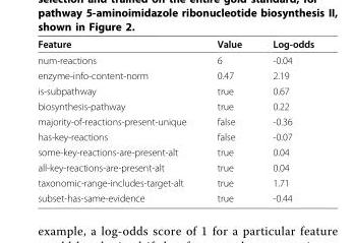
<table><thead><tr><td>Feature</td><td>Value</td><td>Log-odds</td></tr></thead><tbody><tr><td>num-reactions</td><td>6</td><td>-0.04</td></tr><tr><td>enzyme-info-content-norm</td><td>0.47</td><td>2.19</td></tr><tr><td>is-subpathway</td><td>true</td><td>0.67</td></tr><tr><td>biosynthesis-pathway</td><td>true</td><td>0.22</td></tr><tr><td>majority-of-reactions-present-unique</td><td>false</td><td>-0.36</td></tr><tr><td>has-key-reactions</td><td>false</td><td>-0.07</td></tr><tr><td>some-key-reactions-are-present-alt</td><td>true</td><td>0.04</td></tr><tr><td>all-key-reactions-are-present-alt</td><td>true</td><td>0.04</td></tr><tr><td>taxonomic-range-includes-target-alt</td><td>true</td><td>1.71</td></tr><tr><td>subset-has-same-evidence</td><td>true</td><td>-0.44</td></tr></tbody></table>